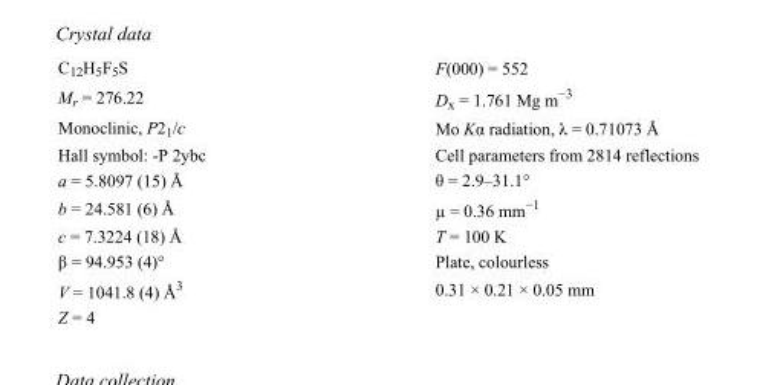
<table><tbody><tr><td>C<sub>12</sub>H<sub>5</sub>F<sub>5</sub>S</td><td>F(000) = 552</td></tr><tr><td>M<sub>r</sub> = 276.22</td><td>D<sub>x</sub> = 1.761 Mg m<sup>−3</sup></td></tr><tr><td>Monoclinic, P2<sub>1</sub>/c</td><td>Mo Kα radiation, λ = 0.71073 Å</td></tr><tr><td>Hall symbol: -P 2ybc</td><td>Cell parameters from 2814 reflections</td></tr><tr><td>a = 5.8097 (15) Å</td><td>θ = 2.9–31.1°</td></tr><tr><td>b = 24.581 (6) Å</td><td>µ = 0.36 mm<sup>−1</sup></td></tr><tr><td>c = 7.3224 (18) Å</td><td>T = 100 K</td></tr><tr><td>β = 94.953 (4)°</td><td>Plate, colourless</td></tr><tr><td>V = 1041.8 (4) Å<sup>3</sup></td><td>0.31 × 0.21 × 0.05 mm</td></tr><tr><td>Z = 4</td><td></td></tr></tbody></table>